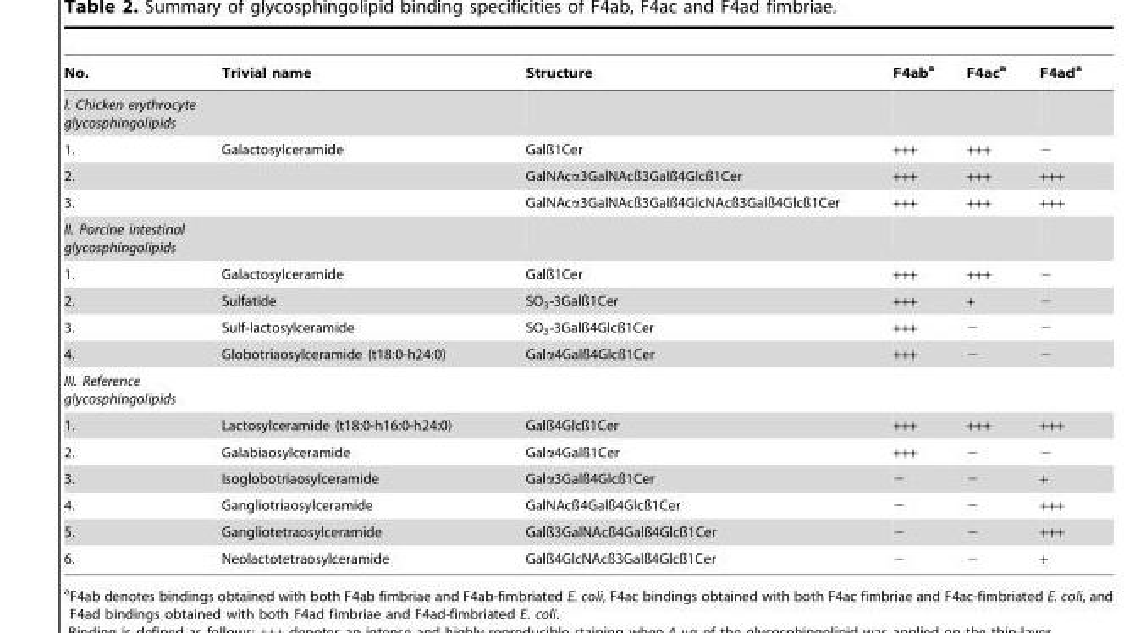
<table><thead><tr><td>No.</td><td>Trivial name</td><td>Structure</td><td>F4ab<sup>a</sup></td><td>F4ac<sup>a</sup></td><td>F4ad<sup>a</sup></td></tr></thead><tbody><tr><td colspan="6">I. Chicken erythrocyte glycosphingolipids</td></tr><tr><td>1.</td><td>Galactosylceramide</td><td>Galß1Cer</td><td>+++</td><td>+++</td><td>−</td></tr><tr><td>2.</td><td></td><td>GalNAcα3GalNAcß3Galß4Glcß1Cer</td><td>+++</td><td>+++</td><td>+++</td></tr><tr><td>3.</td><td></td><td>GalNAcα3GalNAcß3Galß4GlcNAcß3Galß4Glcß1Cer</td><td>+++</td><td>+++</td><td>+++</td></tr><tr><td colspan="6">II. Porcine intestinal glycosphingolipids</td></tr><tr><td>1.</td><td>Galactosylceramide</td><td>Galß1Cer</td><td>+++</td><td>+++</td><td>−</td></tr><tr><td>2.</td><td>Sulfatide</td><td>SO<sub>3</sub>-3Galß1Cer</td><td>+++</td><td>+</td><td>−</td></tr><tr><td>3.</td><td>Sulf-lactosylceramide</td><td>SO<sub>3</sub>-3Galß4Glcß1Cer</td><td>+++</td><td>−</td><td>−</td></tr><tr><td>4.</td><td>Globotriaosylceramide (t18:0-h24:0)</td><td>Galα4Galß4Glcß1Cer</td><td>+++</td><td>−</td><td>−</td></tr><tr><td colspan="6">III. Reference glycosphingolipids</td></tr><tr><td>1.</td><td>Lactosylceramide (t18:0-h16:0-h24:0)</td><td>Galß4Glcß1Cer</td><td>+++</td><td>+++</td><td>+++</td></tr><tr><td>2.</td><td>Galabiaosylceramide</td><td>Galα4Galß1Cer</td><td>+++</td><td>−</td><td>−</td></tr><tr><td>3.</td><td>Isoglobotriaosylceramide</td><td>Galα3Galß4Glcß1Cer</td><td>−</td><td>−</td><td>+</td></tr><tr><td>4.</td><td>Gangliotriaosylceramide</td><td>GalNAcß4Galß4Glcß1Cer</td><td>−</td><td>−</td><td>+++</td></tr><tr><td>5.</td><td>Gangliotetraosylceramide</td><td>Galß3GalNAcß4Galß4Glcß1Cer</td><td>−</td><td>−</td><td>+++</td></tr><tr><td>6.</td><td>Neolactotetraosylceramide</td><td>Galß4GlcNAcß3Galß4Glcß1Cer</td><td>−</td><td>−</td><td>+</td></tr></tbody></table>